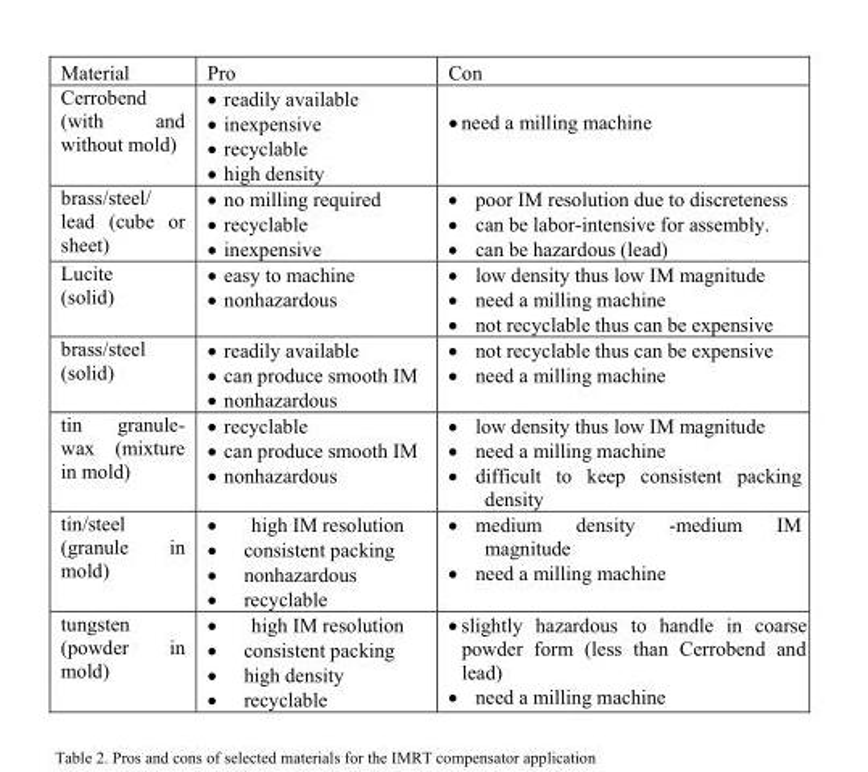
<table><thead><tr><td>Material</td><td>Pro</td><td>Con</td></tr></thead><tbody><tr><td>Cerrobend (with and without mold)</td><td>• readily available • inexpensive • recyclable • high density</td><td>• need a milling machine</td></tr><tr><td>brass/steel/ lead (cube or sheet)</td><td>• no milling required • recyclable • inexpensive</td><td>• poor IM resolution due to discreteness • can be labor-intensive for assembly. • can be hazardous (lead)</td></tr><tr><td>Lucite (solid)</td><td>• easy to machine • nonhazardous</td><td>• low density thus low IM magnitude • need a milling machine • not recyclable thus can be expensive</td></tr><tr><td>brass/steel (solid)</td><td>• readily available • can produce smooth IM • nonhazardous</td><td>• not recyclable thus can be expensive • need a milling machine</td></tr><tr><td>tin granule- wax (mixture in mold)</td><td>• recyclable • can produce smooth IM • nonhazardous</td><td>• low density thus low IM magnitude • need a milling machine • difficult to keep consistent packing density</td></tr><tr><td>tin/steel (granule in mold)</td><td>• high IM resolution • consistent packing • nonhazardous • recyclable</td><td>• medium density -medium IM magnitude • need a milling machine</td></tr><tr><td>tungsten (powder in mold)</td><td>• high IM resolution • consistent packing • high density • recyclable</td><td>• slightly hazardous to handle in coarse powder form (less than Cerrobend and lead) • need a milling machine</td></tr></tbody></table>